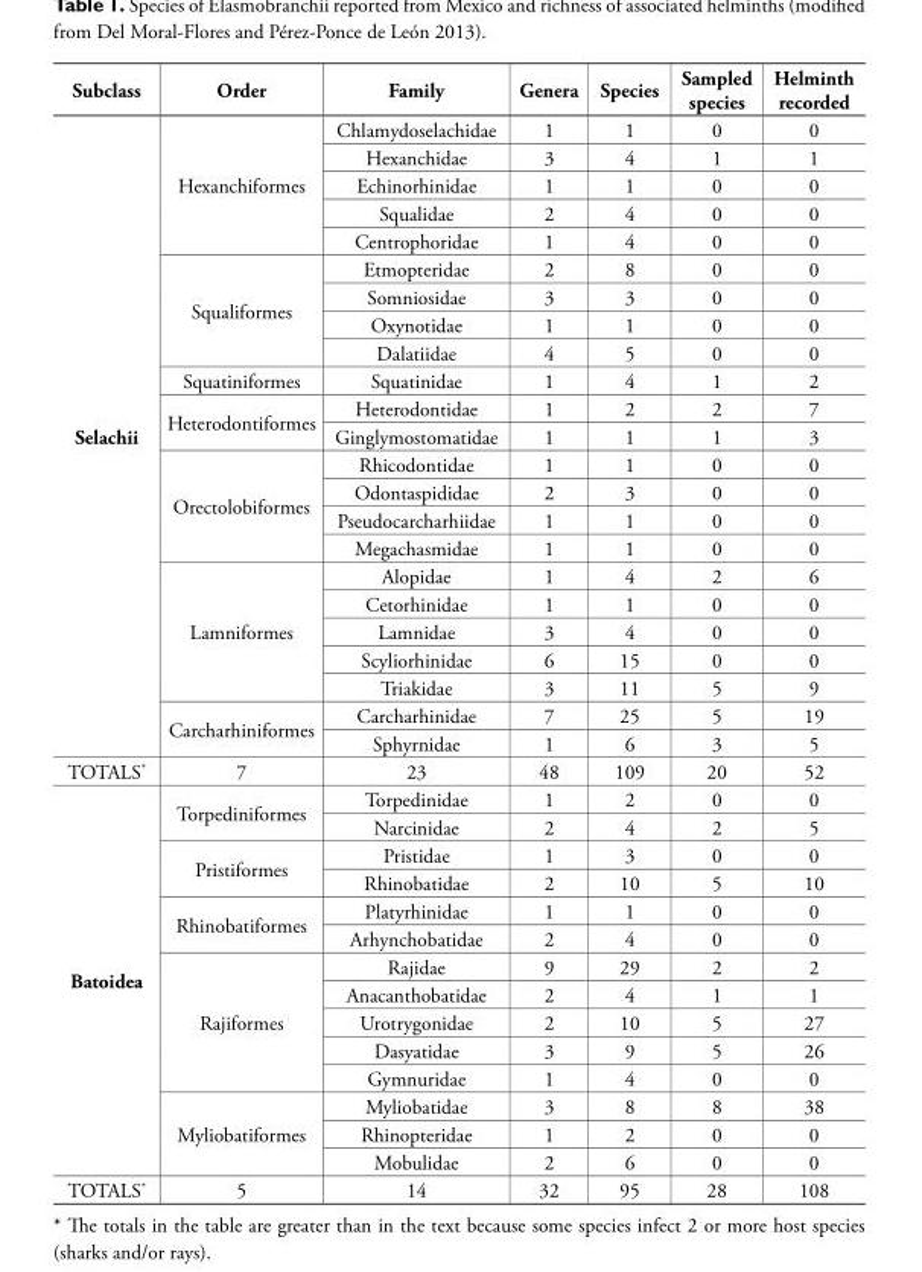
<table><thead><tr><td>Subclass</td><td>Order</td><td>Family</td><td>Genera</td><td>Species</td><td>Sampled species</td><td>Helminth recorded</td></tr></thead><tbody><tr><td rowspan="23">Selachii</td><td rowspan="5">Hexanchiformes</td><td>Chlamydoselachidae</td><td>1</td><td>1</td><td>0</td><td>0</td></tr><tr><td>Hexanchidae</td><td>3</td><td>4</td><td>1</td><td>1</td></tr><tr><td>Echinorhinidae</td><td>1</td><td>1</td><td>0</td><td>0</td></tr><tr><td>Squalidae</td><td>2</td><td>4</td><td>0</td><td>0</td></tr><tr><td>Centrophoridae</td><td>1</td><td>4</td><td>0</td><td>0</td></tr><tr><td rowspan="4">Squaliformes</td><td>Etmopteridae</td><td>2</td><td>8</td><td>0</td><td>0</td></tr><tr><td>Somniosidae</td><td>3</td><td>3</td><td>0</td><td>0</td></tr><tr><td>Oxynotidae</td><td>1</td><td>1</td><td>0</td><td>0</td></tr><tr><td>Dalatiidae</td><td>4</td><td>5</td><td>0</td><td>0</td></tr><tr><td>Squatiniformes</td><td>Squatinidae</td><td>1</td><td>4</td><td>1</td><td>2</td></tr><tr><td rowspan="2">Heterodontiformes</td><td>Heterodontidae</td><td>1</td><td>2</td><td>2</td><td>7</td></tr><tr><td>Ginglymostomatidae</td><td>1</td><td>1</td><td>1</td><td>3</td></tr><tr><td rowspan="4">Orectolobiformes</td><td>Rhicodontidae</td><td>1</td><td>1</td><td>0</td><td>0</td></tr><tr><td>Odontaspididae</td><td>2</td><td>3</td><td>0</td><td>0</td></tr><tr><td>Pseudocarcharhiidae</td><td>1</td><td>1</td><td>0</td><td>0</td></tr><tr><td>Megachasmidae</td><td>1</td><td>1</td><td>0</td><td>0</td></tr><tr><td rowspan="5">Lamniformes</td><td>Alopidae</td><td>1</td><td>4</td><td>2</td><td>6</td></tr><tr><td>Cetorhinidae</td><td>1</td><td>1</td><td>0</td><td>0</td></tr><tr><td>Lamnidae</td><td>3</td><td>4</td><td>0</td><td>0</td></tr><tr><td>Scyliorhinidae</td><td>6</td><td>15</td><td>0</td><td>0</td></tr><tr><td>Triakidae</td><td>3</td><td>11</td><td>5</td><td>9</td></tr><tr><td rowspan="2">Carcharhiniformes</td><td>Carcharhinidae</td><td>7</td><td>25</td><td>5</td><td>19</td></tr><tr><td>Sphyrnidae</td><td>1</td><td>6</td><td>3</td><td>5</td></tr><tr><td>TOTALS*</td><td>7</td><td>23</td><td>48</td><td>109</td><td>20</td><td>52</td></tr><tr><td rowspan="14">Batoidea</td><td rowspan="2">Torpediniformes</td><td>Torpedinidae</td><td>1</td><td>2</td><td>0</td><td>0</td></tr><tr><td>Narcinidae</td><td>2</td><td>4</td><td>2</td><td>5</td></tr><tr><td rowspan="2">Pristiformes</td><td>Pristidae</td><td>1</td><td>3</td><td>0</td><td>0</td></tr><tr><td>Rhinobatidae</td><td>2</td><td>10</td><td>5</td><td>10</td></tr><tr><td rowspan="2">Rhinobatiformes</td><td>Platyrhinidae</td><td>1</td><td>1</td><td>0</td><td>0</td></tr><tr><td>Arhynchobatidae</td><td>2</td><td>4</td><td>0</td><td>0</td></tr><tr><td rowspan="5">Rajiformes</td><td>Rajidae</td><td>9</td><td>29</td><td>2</td><td>2</td></tr><tr><td>Anacanthobatidae</td><td>2</td><td>4</td><td>1</td><td>1</td></tr><tr><td>Urotrygonidae</td><td>2</td><td>10</td><td>5</td><td>27</td></tr><tr><td>Dasyatidae</td><td>3</td><td>9</td><td>5</td><td>26</td></tr><tr><td>Gymnuridae</td><td>1</td><td>4</td><td>0</td><td>0</td></tr><tr><td rowspan="3">Myliobatiformes</td><td>Myliobatidae</td><td>3</td><td>8</td><td>8</td><td>38</td></tr><tr><td>Rhinopteridae</td><td>1</td><td>2</td><td>0</td><td>0</td></tr><tr><td>Mobulidae</td><td>2</td><td>6</td><td>0</td><td>0</td></tr><tr><td>TOTALS*</td><td>5</td><td>14</td><td>32</td><td>95</td><td>28</td><td>108</td></tr></tbody></table>